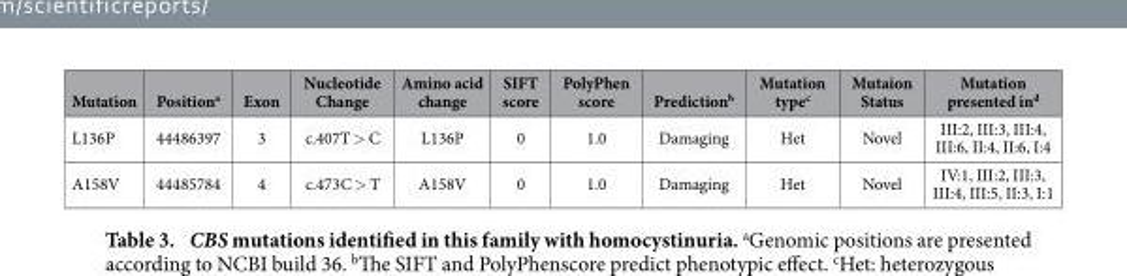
<table><thead><tr><td>Mutation</td><td>Position<sup>a</sup></td><td>Exon</td><td>Nucleotide Change</td><td>Amino acid change</td><td>SIFT score</td><td>PolyPhen score</td><td>Prediction<sup>b</sup></td><td>Mutation type<sup>c</sup></td><td>Mutaion Status</td><td>Mutation presented in<sup>d</sup></td></tr></thead><tbody><tr><td>L136P</td><td>44486397</td><td>3</td><td>c.407T &gt; C</td><td>L136P</td><td>0</td><td>1.0</td><td>Damaging</td><td>Het</td><td>Novel</td><td>III:2, III:3, III:4, III:6, II:4, II:6, I:4</td></tr><tr><td>A158V</td><td>44485784</td><td>4</td><td>c.473C &gt; T</td><td>A158V</td><td>0</td><td>1.0</td><td>Damaging</td><td>Het</td><td>Novel</td><td>IV:1, III:2, III:3, III:4, III:5, II:3, I:1</td></tr></tbody></table>